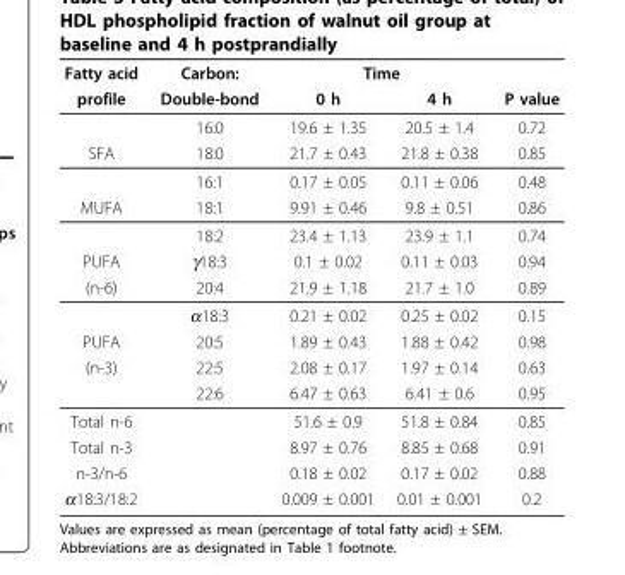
<table><thead><tr><td rowspan="2">Fatty acid profile</td><td rowspan="2">Carbon: Double-bond</td><td colspan="2">Time</td><td rowspan="2">P value</td></tr><tr><td>0 h</td><td>4 h</td></tr></thead><tbody><tr><td></td><td>16:0</td><td>19.6 ± 1.35</td><td>20.5 ± 1.4</td><td>0.72</td></tr><tr><td rowspan="2">SFA</td><td>18:0</td><td>21.7 ± 0.43</td><td>21.8 ± 0.38</td><td>0.85</td></tr><tr><td>16:1</td><td>0.17 ± 0.05</td><td>0.11 ± 0.06</td><td>0.48</td></tr><tr><td rowspan="2">MUFA</td><td>18:1</td><td>9.91 ± 0.46</td><td>9.8 ± 0.51</td><td>0.86</td></tr><tr><td>18:2</td><td>23.4 ± 1.13</td><td>23.9 ± 1.1</td><td>0.74</td></tr><tr><td>PUFA</td><td>γ18:3</td><td>0.1 ± 0.02</td><td>0.11 ± 0.03</td><td>0.94</td></tr><tr><td rowspan="2">(n-6)</td><td>20:4</td><td>21.9 ± 1.18</td><td>21.7 ± 1.0</td><td>0.89</td></tr><tr><td>α18:3</td><td>0.21 ± 0.02</td><td>0.25 ± 0.02</td><td>0.15</td></tr><tr><td>PUFA</td><td>20:5</td><td>1.89 ± 0.43</td><td>1.88 ± 0.42</td><td>0.98</td></tr><tr><td rowspan="2">(n-3)</td><td>22:5</td><td>2.08 ± 0.17</td><td>1.97 ± 0.14</td><td>0.63</td></tr><tr><td>22:6</td><td>6.47 ± 0.63</td><td>6.41 ± 0.6</td><td>0.95</td></tr><tr><td>Total n-6</td><td></td><td>51.6 ± 0.9</td><td>51.8 ± 0.84</td><td>0.85</td></tr><tr><td>Total n-3</td><td></td><td>8.97 ± 0.76</td><td>8.85 ± 0.68</td><td>0.91</td></tr><tr><td>n-3/n-6</td><td></td><td>0.18 ± 0.02</td><td>0.17 ± 0.02</td><td>0.88</td></tr><tr><td>α18:3/18:2</td><td></td><td>0.009 ± 0.001</td><td>0.01 ± 0.001</td><td>0.2</td></tr></tbody></table>